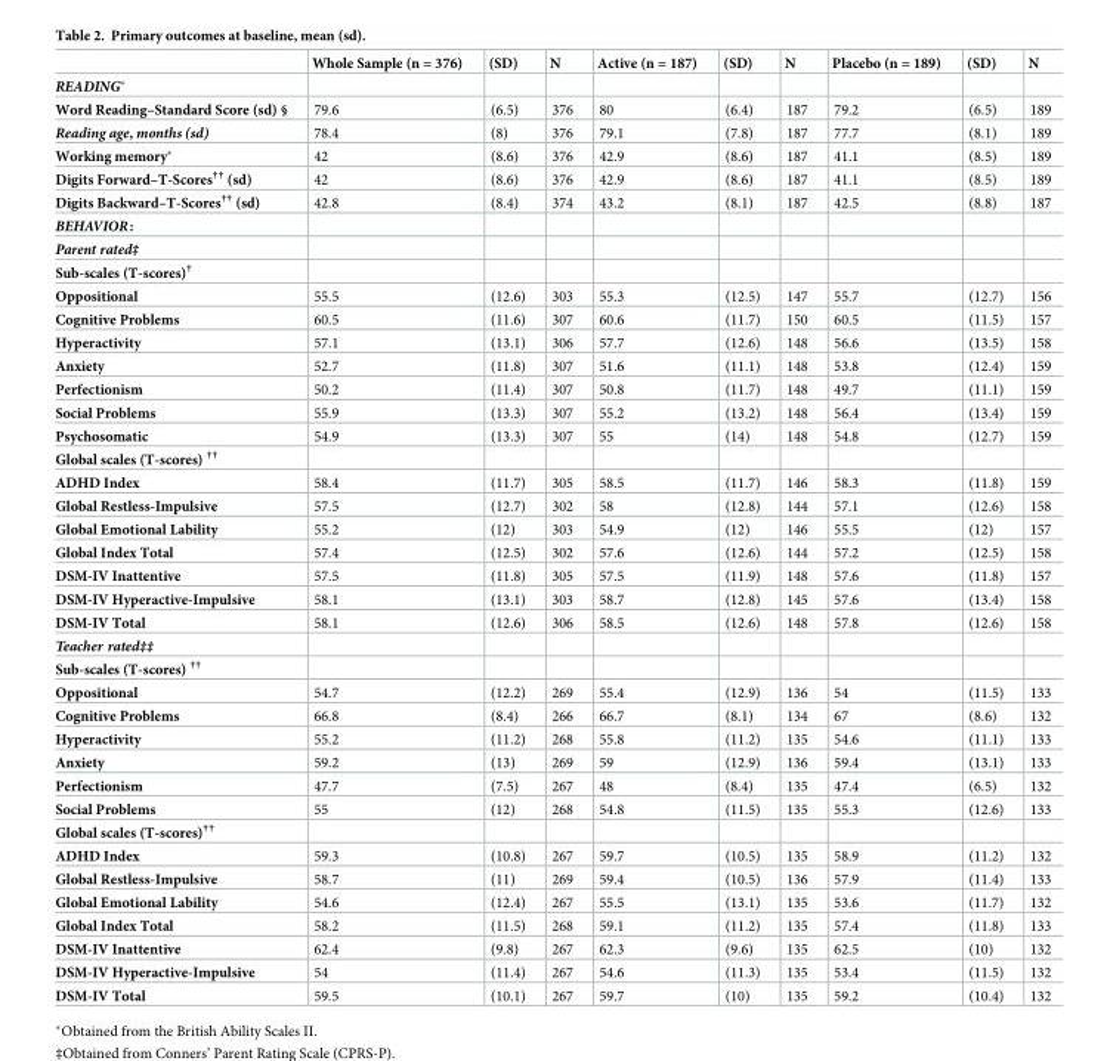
<table><thead><tr><td></td><td>Whole Sample (n = 376)</td><td>(SD)</td><td>N</td><td>Active (n = 187)</td><td>(SD)</td><td>N</td><td>Placebo (n = 189)</td><td>(SD)</td><td>N</td></tr></thead><tbody><tr><td colspan="10">READING*</td></tr><tr><td>Word Reading–Standard Score (sd) §</td><td>79.6</td><td>(6.5)</td><td>376</td><td>80</td><td>(6.4)</td><td>187</td><td>79.2</td><td>(6.5)</td><td>189</td></tr><tr><td>Reading age, months (sd)</td><td>78.4</td><td>(8)</td><td>376</td><td>79.1</td><td>(7.8)</td><td>187</td><td>77.7</td><td>(8.1)</td><td>189</td></tr><tr><td>Working memory*</td><td>42</td><td>(8.6)</td><td>376</td><td>42.9</td><td>(8.6)</td><td>187</td><td>41.1</td><td>(8.5)</td><td>189</td></tr><tr><td>Digits Forward–T-Scores<sup>††</sup> (sd)</td><td>42</td><td>(8.6)</td><td>376</td><td>42.9</td><td>(8.6)</td><td>187</td><td>41.1</td><td>(8.5)</td><td>189</td></tr><tr><td>Digits Backward–T-Scores<sup>††</sup> (sd)</td><td>42.8</td><td>(8.4)</td><td>374</td><td>43.2</td><td>(8.1)</td><td>187</td><td>42.5</td><td>(8.8)</td><td>187</td></tr><tr><td colspan="10">BEHAVIOR:</td></tr><tr><td colspan="10">Parent rated‡</td></tr><tr><td colspan="10">Sub-scales (T-scores)<sup>†</sup></td></tr><tr><td>Oppositional</td><td>55.5</td><td>(12.6)</td><td>303</td><td>55.3</td><td>(12.5)</td><td>147</td><td>55.7</td><td>(12.7)</td><td>156</td></tr><tr><td>Cognitive Problems</td><td>60.5</td><td>(11.6)</td><td>307</td><td>60.6</td><td>(11.7)</td><td>150</td><td>60.5</td><td>(11.5)</td><td>157</td></tr><tr><td>Hyperactivity</td><td>57.1</td><td>(13.1)</td><td>306</td><td>57.7</td><td>(12.6)</td><td>148</td><td>56.6</td><td>(13.5)</td><td>158</td></tr><tr><td>Anxiety</td><td>52.7</td><td>(11.8)</td><td>307</td><td>51.6</td><td>(11.1)</td><td>148</td><td>53.8</td><td>(12.4)</td><td>159</td></tr><tr><td>Perfectionism</td><td>50.2</td><td>(11.4)</td><td>307</td><td>50.8</td><td>(11.7)</td><td>148</td><td>49.7</td><td>(11.1)</td><td>159</td></tr><tr><td>Social Problems</td><td>55.9</td><td>(13.3)</td><td>307</td><td>55.2</td><td>(13.2)</td><td>148</td><td>56.4</td><td>(13.4)</td><td>159</td></tr><tr><td>Psychosomatic</td><td>54.9</td><td>(13.3)</td><td>307</td><td>55</td><td>(14)</td><td>148</td><td>54.8</td><td>(12.7)</td><td>159</td></tr><tr><td colspan="10">Global scales (T-scores) <sup>††</sup></td></tr><tr><td>ADHD Index</td><td>58.4</td><td>(11.7)</td><td>305</td><td>58.5</td><td>(11.7)</td><td>146</td><td>58.3</td><td>(11.8)</td><td>159</td></tr><tr><td>Global Restless-Impulsive</td><td>57.5</td><td>(12.7)</td><td>302</td><td>58</td><td>(12.8)</td><td>144</td><td>57.1</td><td>(12.6)</td><td>158</td></tr><tr><td>Global Emotional Lability</td><td>55.2</td><td>(12)</td><td>303</td><td>54.9</td><td>(12)</td><td>146</td><td>55.5</td><td>(12)</td><td>157</td></tr><tr><td>Global Index Total</td><td>57.4</td><td>(12.5)</td><td>302</td><td>57.6</td><td>(12.6)</td><td>144</td><td>57.2</td><td>(12.5)</td><td>158</td></tr><tr><td>DSM-IV Inattentive</td><td>57.5</td><td>(11.8)</td><td>305</td><td>57.5</td><td>(11.9)</td><td>148</td><td>57.6</td><td>(11.8)</td><td>157</td></tr><tr><td>DSM-IV Hyperactive-Impulsive</td><td>58.1</td><td>(13.1)</td><td>303</td><td>58.7</td><td>(12.8)</td><td>145</td><td>57.6</td><td>(13.4)</td><td>158</td></tr><tr><td>DSM-IV Total</td><td>58.1</td><td>(12.6)</td><td>306</td><td>58.5</td><td>(12.6)</td><td>148</td><td>57.8</td><td>(12.6)</td><td>158</td></tr><tr><td colspan="10">Teacher rated‡‡</td></tr><tr><td colspan="10">Sub-scales (T-scores) <sup>††</sup></td></tr><tr><td>Oppositional</td><td>54.7</td><td>(12.2)</td><td>269</td><td>55.4</td><td>(12.9)</td><td>136</td><td>54</td><td>(11.5)</td><td>133</td></tr><tr><td>Cognitive Problems</td><td>66.8</td><td>(8.4)</td><td>266</td><td>66.7</td><td>(8.1)</td><td>134</td><td>67</td><td>(8.6)</td><td>132</td></tr><tr><td>Hyperactivity</td><td>55.2</td><td>(11.2)</td><td>268</td><td>55.8</td><td>(11.2)</td><td>135</td><td>54.6</td><td>(11.1)</td><td>133</td></tr><tr><td>Anxiety</td><td>59.2</td><td>(13)</td><td>269</td><td>59</td><td>(12.9)</td><td>136</td><td>59.4</td><td>(13.1)</td><td>133</td></tr><tr><td>Perfectionism</td><td>47.7</td><td>(7.5)</td><td>267</td><td>48</td><td>(8.4)</td><td>135</td><td>47.4</td><td>(6.5)</td><td>132</td></tr><tr><td>Social Problems</td><td>55</td><td>(12)</td><td>268</td><td>54.8</td><td>(11.5)</td><td>135</td><td>55.3</td><td>(12.6)</td><td>133</td></tr><tr><td colspan="10">Global scales (T-scores)<sup>††</sup></td></tr><tr><td>ADHD Index</td><td>59.3</td><td>(10.8)</td><td>267</td><td>59.7</td><td>(10.5)</td><td>135</td><td>58.9</td><td>(11.2)</td><td>132</td></tr><tr><td>Global Restless-Impulsive</td><td>58.7</td><td>(11)</td><td>269</td><td>59.4</td><td>(10.5)</td><td>136</td><td>57.9</td><td>(11.4)</td><td>133</td></tr><tr><td>Global Emotional Lability</td><td>54.6</td><td>(12.4)</td><td>267</td><td>55.5</td><td>(13.1)</td><td>135</td><td>53.6</td><td>(11.7)</td><td>132</td></tr><tr><td>Global Index Total</td><td>58.2</td><td>(11.5)</td><td>268</td><td>59.1</td><td>(11.2)</td><td>135</td><td>57.4</td><td>(11.8)</td><td>133</td></tr><tr><td>DSM-IV Inattentive</td><td>62.4</td><td>(9.8)</td><td>267</td><td>62.3</td><td>(9.6)</td><td>135</td><td>62.5</td><td>(10)</td><td>132</td></tr><tr><td>DSM-IV Hyperactive-Impulsive</td><td>54</td><td>(11.4)</td><td>267</td><td>54.6</td><td>(11.3)</td><td>135</td><td>53.4</td><td>(11.5)</td><td>132</td></tr><tr><td>DSM-IV Total</td><td>59.5</td><td>(10.1)</td><td>267</td><td>59.7</td><td>(10)</td><td>135</td><td>59.2</td><td>(10.4)</td><td>132</td></tr></tbody></table>